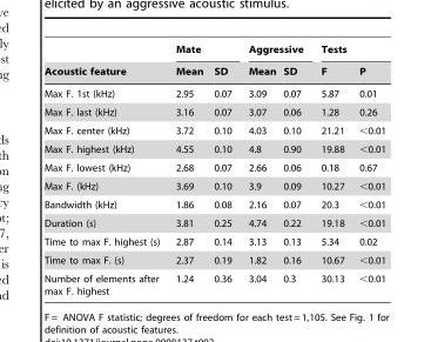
<table><thead><tr><td rowspan="2">Acoustic feature</td><td colspan="2">Mate</td><td colspan="2">Aggressive</td><td colspan="2">Tests</td></tr><tr><td>Mean</td><td>SD</td><td>Mean</td><td>SD</td><td>F</td><td>P</td></tr></thead><tbody><tr><td>Max F. 1st (kHz)</td><td>2.95</td><td>0.07</td><td>3.09</td><td>0.07</td><td>5.87</td><td>0.01</td></tr><tr><td>Max F. last (kHz)</td><td>3.16</td><td>0.07</td><td>3.07</td><td>0.06</td><td>1.28</td><td>0.26</td></tr><tr><td>Max F. center (kHz)</td><td>3.72</td><td>0.10</td><td>4.03</td><td>0.10</td><td>21.21</td><td>&lt;0.01</td></tr><tr><td>Max F. highest (kHz)</td><td>4.55</td><td>0.10</td><td>4.8</td><td>0.90</td><td>19.88</td><td>&lt;0.01</td></tr><tr><td>Max F. lowest (kHz)</td><td>2.68</td><td>0.07</td><td>2.66</td><td>0.06</td><td>0.18</td><td>0.67</td></tr><tr><td>Max F. (kHz)</td><td>3.69</td><td>0.10</td><td>3.9</td><td>0.09</td><td>10.27</td><td>&lt;0.01</td></tr><tr><td>Bandwidth (kHz)</td><td>1.86</td><td>0.08</td><td>2.16</td><td>0.07</td><td>20.3</td><td>&lt;0.01</td></tr><tr><td>Duration (s)</td><td>3.81</td><td>0.25</td><td>4.74</td><td>0.22</td><td>19.18</td><td>&lt;0.01</td></tr><tr><td>Time to max F. highest (s)</td><td>2.87</td><td>0.14</td><td>3.13</td><td>0.13</td><td>5.34</td><td>0.02</td></tr><tr><td>Time to max F. (s)</td><td>2.37</td><td>0.19</td><td>1.82</td><td>0.16</td><td>10.67</td><td>&lt;0.01</td></tr><tr><td>Number of elements after max F. highest</td><td>1.24</td><td>0.36</td><td>3.04</td><td>0.3</td><td>30.13</td><td>&lt;0.01</td></tr></tbody></table>